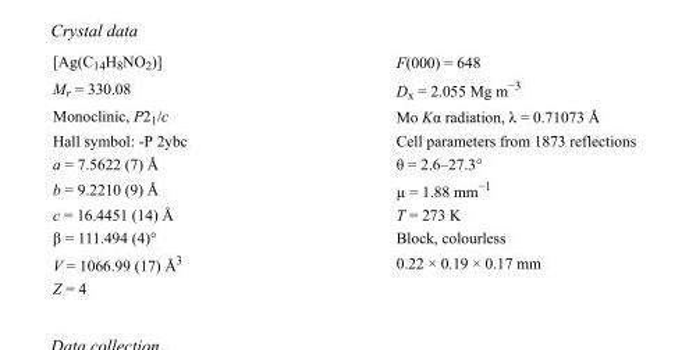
<table><tbody><tr><td>[Ag(C<sub>14</sub>H<sub>8</sub>NO<sub>2</sub>)]</td><td>F(000) = 648</td></tr><tr><td>M<sub>r</sub> = 330.08</td><td>D<sub>x</sub> = 2.055 Mg m<sup>−3</sup></td></tr><tr><td>Monoclinic, P2<sub>1</sub>/c</td><td>Mo Kα radiation, λ = 0.71073 Å</td></tr><tr><td>Hall symbol: -P 2ybc</td><td>Cell parameters from 1873 reflections</td></tr><tr><td>a = 7.5622 (7) Å</td><td>θ = 2.6–27.3°</td></tr><tr><td>b = 9.2210 (9) Å</td><td>µ = 1.88 mm<sup>−1</sup></td></tr><tr><td>c = 16.4451 (14) Å</td><td>T = 273 K</td></tr><tr><td>β = 111.494 (4)°</td><td>Block, colourless</td></tr><tr><td>V = 1066.99 (17) Å<sup>3</sup></td><td>0.22 × 0.19 × 0.17 mm</td></tr><tr><td>Z = 4</td><td></td></tr></tbody></table>